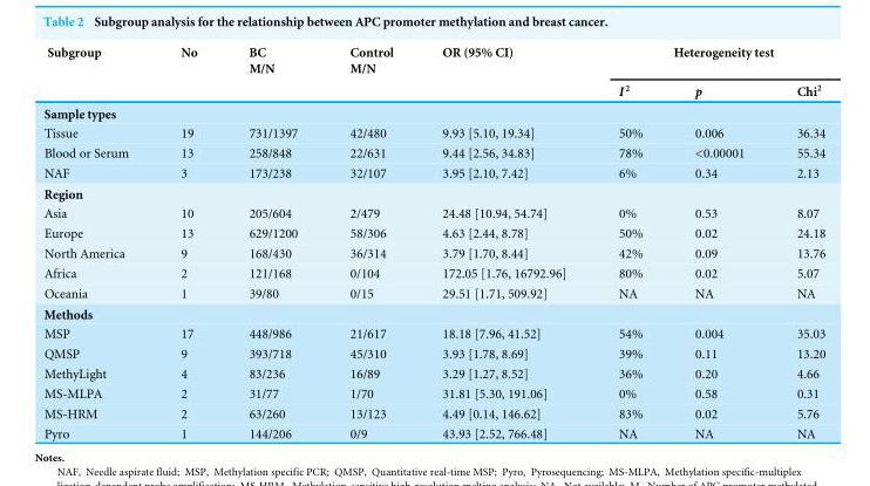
<table><thead><tr><td rowspan="2">Subgroup</td><td rowspan="2">No</td><td rowspan="2">BC M/N</td><td rowspan="2">Control M/N</td><td rowspan="2">OR (95% CI)</td><td colspan="3">Heterogeneity test</td></tr><tr><td>I <sup>2</sup></td><td>p</td><td>Chi<sup>2</sup></td></tr></thead><tbody><tr><td colspan="8">Sample types</td></tr><tr><td>Tissue</td><td>19</td><td>731/1397</td><td>42/480</td><td>9.93 [5.10, 19.34]</td><td>50%</td><td>0.006</td><td>36.34</td></tr><tr><td>Blood or Serum</td><td>13</td><td>258/848</td><td>22/631</td><td>9.44 [2.56, 34.83]</td><td>78%</td><td>&lt;0.00001</td><td>55.34</td></tr><tr><td>NAF</td><td>3</td><td>173/238</td><td>32/107</td><td>3.95 [2.10, 7.42]</td><td>6%</td><td>0.34</td><td>2.13</td></tr><tr><td colspan="8">Region</td></tr><tr><td>Asia</td><td>10</td><td>205/604</td><td>2/479</td><td>24.48 [10.94, 54.74]</td><td>0%</td><td>0.53</td><td>8.07</td></tr><tr><td>Europe</td><td>13</td><td>629/1200</td><td>58/306</td><td>4.63 [2.44, 8.78]</td><td>50%</td><td>0.02</td><td>24.18</td></tr><tr><td>North America</td><td>9</td><td>168/430</td><td>36/314</td><td>3.79 [1.70, 8.44]</td><td>42%</td><td>0.09</td><td>13.76</td></tr><tr><td>Africa</td><td>2</td><td>121/168</td><td>0/104</td><td>172.05 [1.76, 16792.96]</td><td>80%</td><td>0.02</td><td>5.07</td></tr><tr><td>Oceania</td><td>1</td><td>39/80</td><td>0/15</td><td>29.51 [1.71, 509.92]</td><td>NA</td><td>NA</td><td>NA</td></tr><tr><td colspan="8">Methods</td></tr><tr><td>MSP</td><td>17</td><td>448/986</td><td>21/617</td><td>18.18 [7.96, 41.52]</td><td>54%</td><td>0.004</td><td>35.03</td></tr><tr><td>QMSP</td><td>9</td><td>393/718</td><td>45/310</td><td>3.93 [1.78, 8.69]</td><td>39%</td><td>0.11</td><td>13.20</td></tr><tr><td>MethyLight</td><td>4</td><td>83/236</td><td>16/89</td><td>3.29 [1.27, 8.52]</td><td>36%</td><td>0.20</td><td>4.66</td></tr><tr><td>MS-MLPA</td><td>2</td><td>31/77</td><td>1/70</td><td>31.81 [5.30, 191.06]</td><td>0%</td><td>0.58</td><td>0.31</td></tr><tr><td>MS-HRM</td><td>2</td><td>63/260</td><td>13/123</td><td>4.49 [0.14, 146.62]</td><td>83%</td><td>0.02</td><td>5.76</td></tr><tr><td>Pyro</td><td>1</td><td>144/206</td><td>0/9</td><td>43.93 [2.52, 766.48]</td><td>NA</td><td>NA</td><td>NA</td></tr></tbody></table>